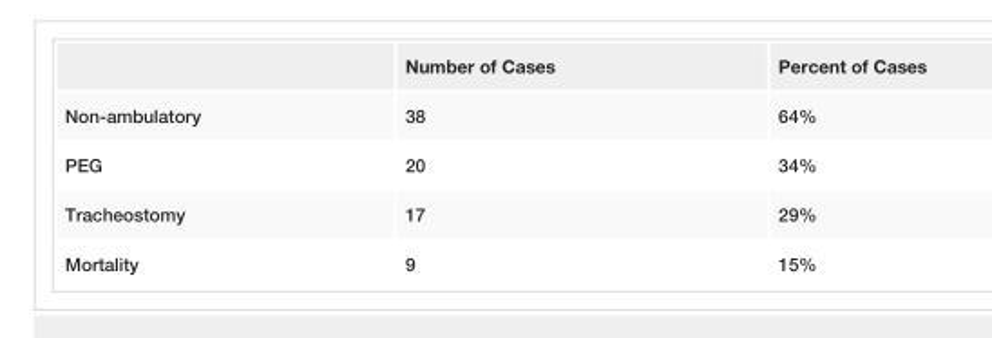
<table><thead><tr><td></td><td>Number of Cases</td><td>Percent of Cases</td></tr></thead><tbody><tr><td>Non-ambulatory</td><td>38</td><td>64%</td></tr><tr><td>PEG</td><td>20</td><td>34%</td></tr><tr><td>Tracheostomy</td><td>17</td><td>29%</td></tr><tr><td>Mortality</td><td>9</td><td>15%</td></tr></tbody></table>